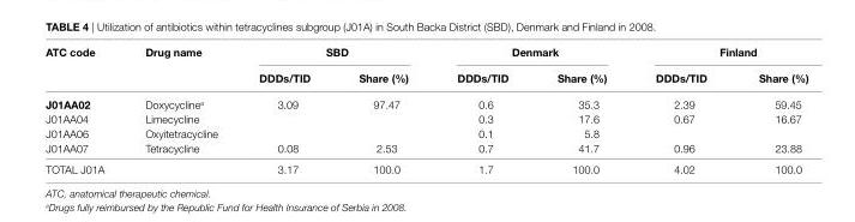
<table><thead><tr><td rowspan="2">aTc code</td><td rowspan="2">Drug name</td><td colspan="2">sBD</td><td colspan="2">Denmark</td><td colspan="2">Finland</td></tr><tr><td>DDDs/TiD</td><td>share (%)</td><td>DDDs/TiD</td><td>share (%)</td><td>DDDs/TiD</td><td>share (%)</td></tr></thead><tbody><tr><td>J01aa02</td><td>Doxycycline<sup>a</sup></td><td>3.09</td><td>97.47</td><td>0.6</td><td>35.3</td><td>2.39</td><td>59.45</td></tr><tr><td>J01AA04</td><td>Limecycline</td><td></td><td></td><td>0.3</td><td>17.6</td><td>0.67</td><td>16.67</td></tr><tr><td>J01AA06</td><td>Oxyitetracycline</td><td></td><td></td><td>0.1</td><td>5.8</td><td></td><td></td></tr><tr><td>J01AA07</td><td>Tetracycline</td><td>0.08</td><td>2.53</td><td>0.7</td><td>41.7</td><td>0.96</td><td>23.88</td></tr><tr><td>TOTAL J01A</td><td></td><td>3.17</td><td>100.0</td><td>1.7</td><td>100.0</td><td>4.02</td><td>100.0</td></tr></tbody></table>